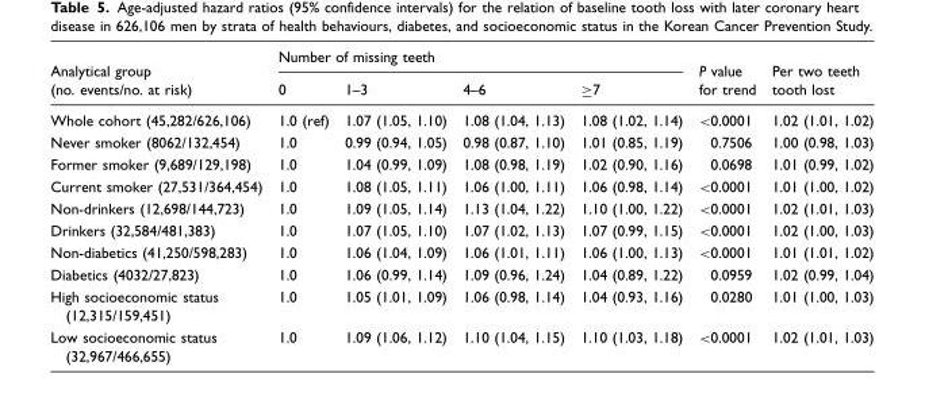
<table><thead><tr><td rowspan="2">Analytical group (no. events/no. at risk)</td><td colspan="4">Number of missing teeth</td><td rowspan="2">P value for trend</td><td rowspan="2">Per two teeth tooth lost</td></tr><tr><td>0</td><td>1–3</td><td>4–6</td><td>≥7</td></tr></thead><tbody><tr><td>Whole cohort (45,282/626,106)</td><td>1.0 (ref)</td><td>1.07 (1.05, 1.10)</td><td>1.08 (1.04, 1.13)</td><td>1.08 (1.02, 1.14)</td><td>&lt;0.0001</td><td>1.02 (1.01, 1.02)</td></tr><tr><td>Never smoker (8062/132,454)</td><td>1.0</td><td>0.99 (0.94, 1.05)</td><td>0.98 (0.87, 1.10)</td><td>1.01 (0.85, 1.19)</td><td>0.7506</td><td>1.00 (0.98, 1.03)</td></tr><tr><td>Former smoker (9,689/129,198)</td><td>1.0</td><td>1.04 (0.99, 1.09)</td><td>1.08 (0.98, 1.19)</td><td>1.02 (0.90, 1.16)</td><td>0.0698</td><td>1.01 (0.99, 1.02)</td></tr><tr><td>Current smoker (27,531/364,454)</td><td>1.0</td><td>1.08 (1.05, 1.11)</td><td>1.06 (1.00, 1.11)</td><td>1.06 (0.98, 1.14)</td><td>&lt;0.0001</td><td>1.01 (1.00, 1.02)</td></tr><tr><td>Non-drinkers (12,698/144,723)</td><td>1.0</td><td>1.09 (1.05, 1.14)</td><td>1.13 (1.04, 1.22)</td><td>1.10 (1.00, 1.22)</td><td>&lt;0.0001</td><td>1.02 (1.01, 1.03)</td></tr><tr><td>Drinkers (32,584/481,383)</td><td>1.0</td><td>1.07 (1.05, 1.10)</td><td>1.07 (1.02, 1.13)</td><td>1.07 (0.99, 1.15)</td><td>&lt;0.0001</td><td>1.02 (1.00, 1.03)</td></tr><tr><td>Non-diabetics (41,250/598,283)</td><td>1.0</td><td>1.06 (1.04, 1.09)</td><td>1.06 (1.01, 1.11)</td><td>1.06 (1.00, 1.13)</td><td>&lt;0.0001</td><td>1.01 (1.01, 1.02)</td></tr><tr><td>Diabetics (4032/27,823)</td><td>1.0</td><td>1.06 (0.99, 1.14)</td><td>1.09 (0.96, 1.24)</td><td>1.04 (0.89, 1.22)</td><td>0.0959</td><td>1.02 (0.99, 1.04)</td></tr><tr><td>High socioeconomic status (12,315/159,451)</td><td>1.0</td><td>1.05 (1.01, 1.09)</td><td>1.06 (0.98, 1.14)</td><td>1.04 (0.93, 1.16)</td><td>0.0280</td><td>1.01 (1.00, 1.03)</td></tr><tr><td>Low socioeconomic status (32,967/466,655)</td><td>1.0</td><td>1.09 (1.06, 1.12)</td><td>1.10 (1.04, 1.15)</td><td>1.10 (1.03, 1.18)</td><td>&lt;0.0001</td><td>1.02 (1.01, 1.03)</td></tr></tbody></table>